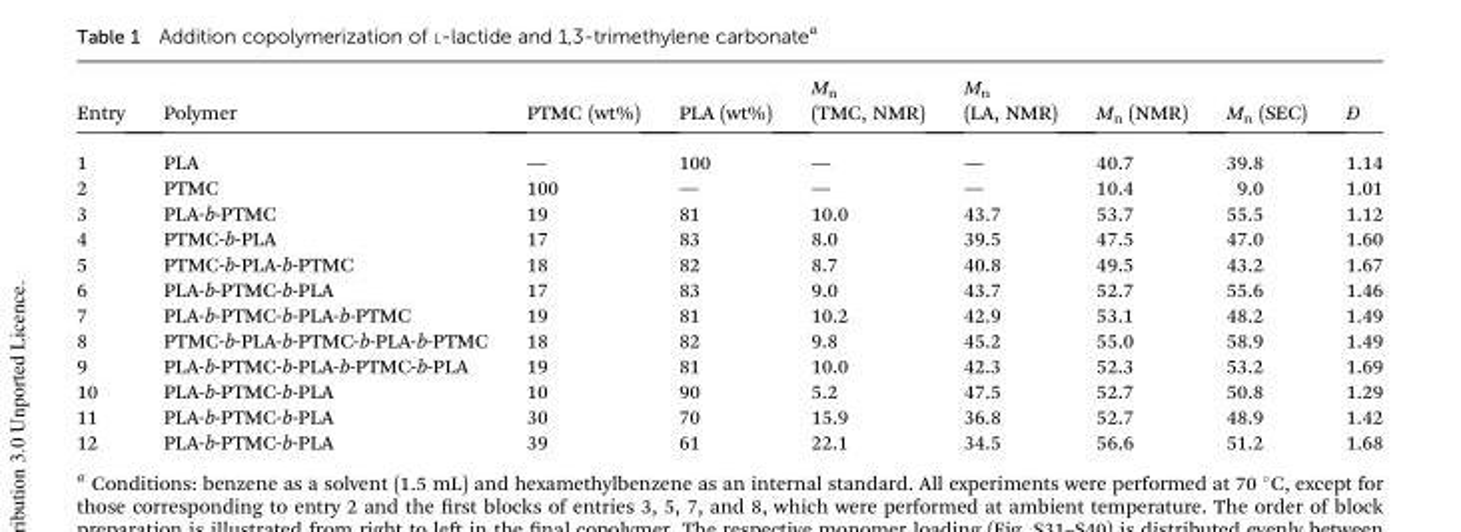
<table><thead><tr><td>Entry</td><td>Polymer</td><td>PTMC (wt%)</td><td>PLA (wt%)</td><td>M<sub>n</sub> (TMC, NMR)</td><td>M<sub>n</sub> (LA, NMR)</td><td>M<sub>n</sub> (NMR)</td><td>M<sub>n</sub> (SEC)</td><td>Đ</td></tr></thead><tbody><tr><td>1</td><td>PLA</td><td>—</td><td>100</td><td>—</td><td>—</td><td>40.7</td><td>39.8</td><td>1.14</td></tr><tr><td>2</td><td>PTMC</td><td>100</td><td>—</td><td>—</td><td>—</td><td>10.4</td><td>9.0</td><td>1.01</td></tr><tr><td>3</td><td>PLA-b-PTMC</td><td>19</td><td>81</td><td>10.0</td><td>43.7</td><td>53.7</td><td>55.5</td><td>1.12</td></tr><tr><td>4</td><td>PTMC-b-PLA</td><td>17</td><td>83</td><td>8.0</td><td>39.5</td><td>47.5</td><td>47.0</td><td>1.60</td></tr><tr><td>5</td><td>PTMC-b-PLA-b-PTMC</td><td>18</td><td>82</td><td>8.7</td><td>40.8</td><td>49.5</td><td>43.2</td><td>1.67</td></tr><tr><td>6</td><td>PLA-b-PTMC-b-PLA</td><td>17</td><td>83</td><td>9.0</td><td>43.7</td><td>52.7</td><td>55.6</td><td>1.46</td></tr><tr><td>7</td><td>PLA-b-PTMC-b-PLA-b-PTMC</td><td>19</td><td>81</td><td>10.2</td><td>42.9</td><td>53.1</td><td>48.2</td><td>1.49</td></tr><tr><td>8</td><td>PTMC-b-PLA-b-PTMC-b-PLA-b-PTMC</td><td>18</td><td>82</td><td>9.8</td><td>45.2</td><td>55.0</td><td>58.9</td><td>1.49</td></tr><tr><td>9</td><td>PLA-b-PTMC-b-PLA-b-PTMC-b-PLA</td><td>19</td><td>81</td><td>10.0</td><td>42.3</td><td>52.3</td><td>53.2</td><td>1.69</td></tr><tr><td>10</td><td>PLA-b-PTMC-b-PLA</td><td>10</td><td>90</td><td>5.2</td><td>47.5</td><td>52.7</td><td>50.8</td><td>1.29</td></tr><tr><td>11</td><td>PLA-b-PTMC-b-PLA</td><td>30</td><td>70</td><td>15.9</td><td>36.8</td><td>52.7</td><td>48.9</td><td>1.42</td></tr><tr><td>12</td><td>PLA-b-PTMC-b-PLA</td><td>39</td><td>61</td><td>22.1</td><td>34.5</td><td>56.6</td><td>51.2</td><td>1.68</td></tr></tbody></table>